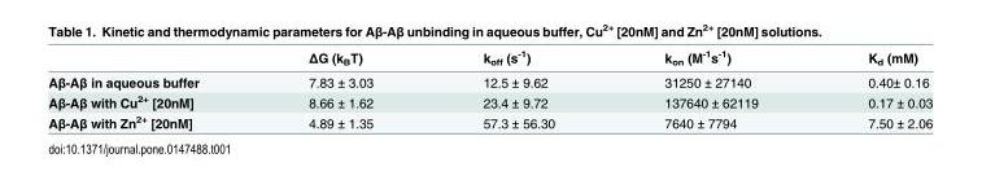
<table><thead><tr><td></td><td>ΔG (k<sub>B</sub>T)</td><td>k<sub>off</sub> (s<sup>-1</sup>)</td><td>k<sub>on</sub> (M<sup>-1</sup>s<sup>-1</sup>)</td><td>K<sub>d</sub> (mM)</td></tr></thead><tbody><tr><td>Aβ-Aβ in aqueous buffer</td><td>7.83 ± 3.03</td><td>12.5 ± 9.62</td><td>31250 ± 27140</td><td>0.40± 0.16</td></tr><tr><td>Aβ-Aβ with Cu<sup>2+</sup> [20nM]</td><td>8.66 ± 1.62</td><td>23.4 ± 9.72</td><td>137640 ± 62119</td><td>0.17 ± 0.03</td></tr><tr><td>Aβ-Aβ with Zn<sup>2+</sup> [20nM]</td><td>4.89 ± 1.35</td><td>57.3 ± 56.30</td><td>7640 ± 7794</td><td>7.50 ± 2.06</td></tr></tbody></table>